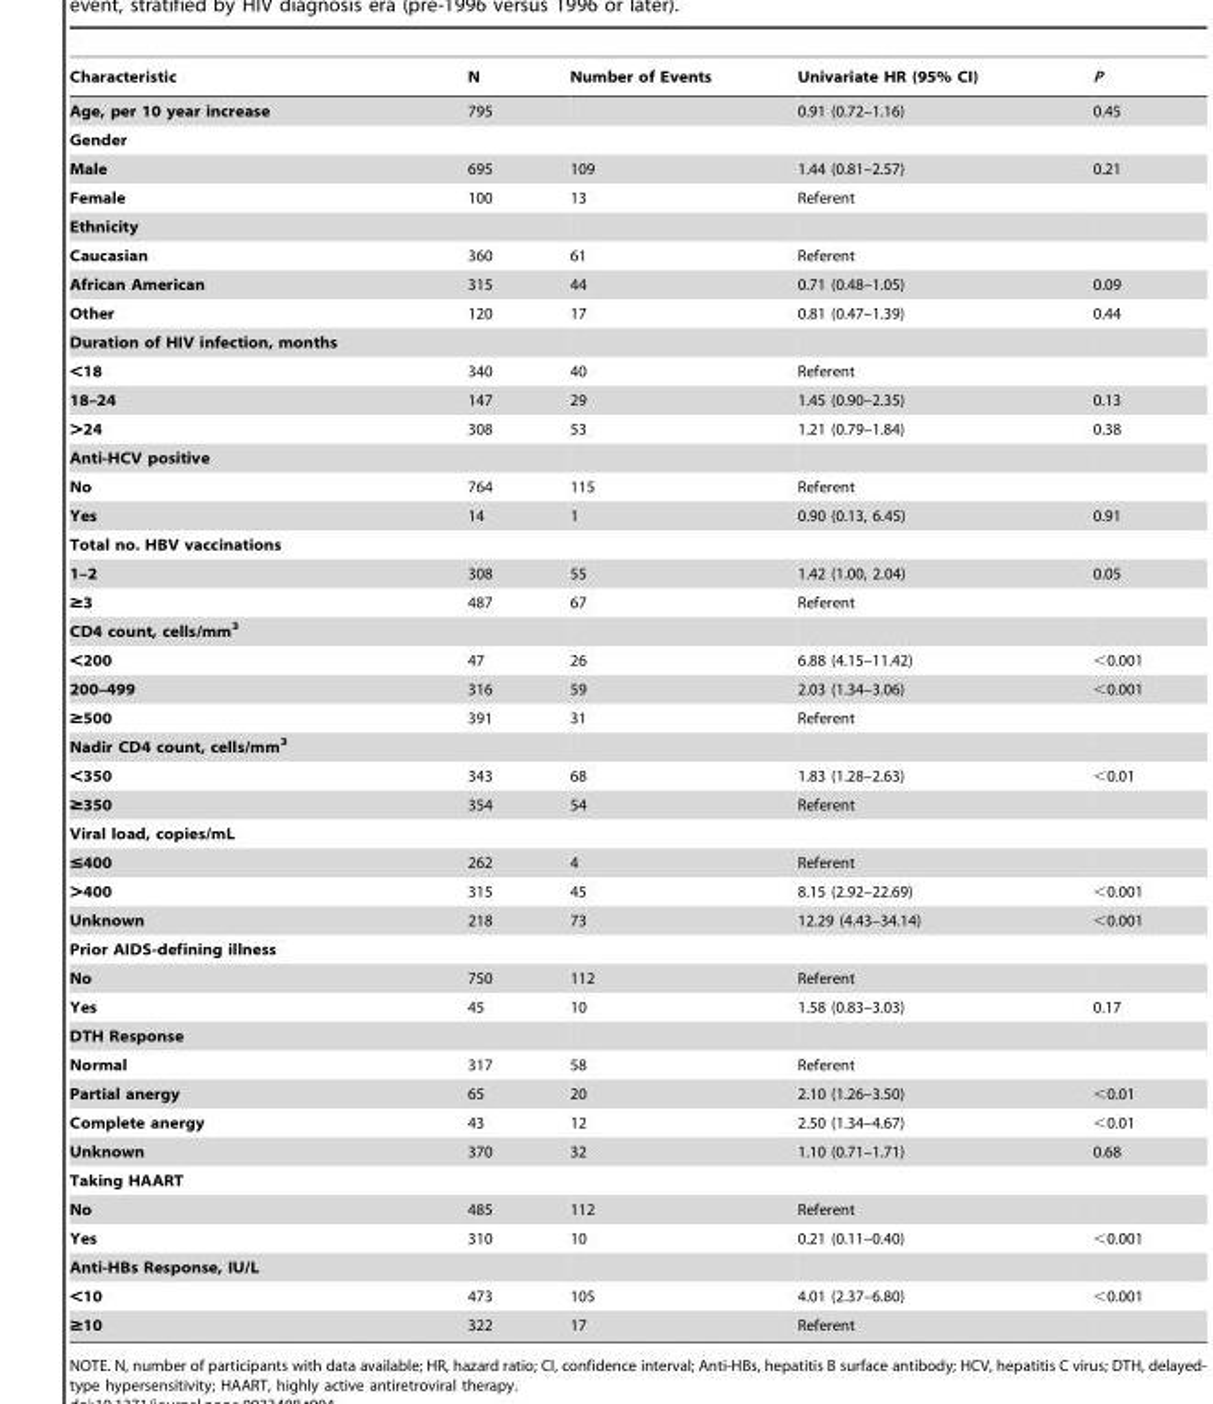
<table><thead><tr><td>Characteristic</td><td>N</td><td>Number of Events</td><td>Univariate HR (95% CI)</td><td>P</td></tr></thead><tbody><tr><td>Age, per 10 year increase</td><td>795</td><td></td><td>0.91 (0.72–1.16)</td><td>0.45</td></tr><tr><td colspan="5">Gender</td></tr><tr><td>Male</td><td>695</td><td>109</td><td>1.44 (0.81–2.57)</td><td>0.21</td></tr><tr><td>Female</td><td>100</td><td>13</td><td>Referent</td><td></td></tr><tr><td colspan="5">Ethnicity</td></tr><tr><td>Caucasian</td><td>360</td><td>61</td><td>Referent</td><td></td></tr><tr><td>African American</td><td>315</td><td>44</td><td>0.71 (0.48–1.05)</td><td>0.09</td></tr><tr><td>Other</td><td>120</td><td>17</td><td>0.81 (0.47–1.39)</td><td>0.44</td></tr><tr><td colspan="5">Duration of HIV infection, months</td></tr><tr><td>&lt;18</td><td>340</td><td>40</td><td>Referent</td><td></td></tr><tr><td>18–24</td><td>147</td><td>29</td><td>1.45 (0.90–2.35)</td><td>0.13</td></tr><tr><td>&gt;24</td><td>308</td><td>53</td><td>1.21 (0.79–1.84)</td><td>0.38</td></tr><tr><td colspan="5">Anti-HCV positive</td></tr><tr><td>No</td><td>764</td><td>115</td><td>Referent</td><td></td></tr><tr><td>Yes</td><td>14</td><td>1</td><td>0.90 (0.13, 6.45)</td><td>0.91</td></tr><tr><td colspan="5">Total no. HBV vaccinations</td></tr><tr><td>1–2</td><td>308</td><td>55</td><td>1.42 (1.00, 2.04)</td><td>0.05</td></tr><tr><td>≥3</td><td>487</td><td>67</td><td>Referent</td><td></td></tr><tr><td colspan="5">CD4 count, cells/mm<sup>3</sup></td></tr><tr><td>&lt;200</td><td>47</td><td>26</td><td>6.88 (4.15–11.42)</td><td>&lt;0.001</td></tr><tr><td>200–499</td><td>316</td><td>59</td><td>2.03 (1.34–3.06)</td><td>&lt;0.001</td></tr><tr><td>≥500</td><td>391</td><td>31</td><td>Referent</td><td></td></tr><tr><td colspan="5">Nadir CD4 count, cells/mm<sup>3</sup></td></tr><tr><td>&lt;350</td><td>343</td><td>68</td><td>1.83 (1.28–2.63)</td><td>&lt;0.01</td></tr><tr><td>≥350</td><td>354</td><td>54</td><td>Referent</td><td></td></tr><tr><td colspan="5">Viral load, copies/mL</td></tr><tr><td>≤400</td><td>262</td><td>4</td><td>Referent</td><td></td></tr><tr><td>&gt;400</td><td>315</td><td>45</td><td>8.15 (2.92–22.69)</td><td>&lt;0.001</td></tr><tr><td>Unknown</td><td>218</td><td>73</td><td>12.29 (4.43–34.14)</td><td>&lt;0.001</td></tr><tr><td colspan="5">Prior AIDS-defining illness</td></tr><tr><td>No</td><td>750</td><td>112</td><td>Referent</td><td></td></tr><tr><td>Yes</td><td>45</td><td>10</td><td>1.58 (0.83–3.03)</td><td>0.17</td></tr><tr><td colspan="5">DTH Response</td></tr><tr><td>Normal</td><td>317</td><td>58</td><td>Referent</td><td></td></tr><tr><td>Partial anergy</td><td>65</td><td>20</td><td>2.10 (1.26–3.50)</td><td>&lt;0.01</td></tr><tr><td>Complete anergy</td><td>43</td><td>12</td><td>2.50 (1.34–4.67)</td><td>&lt;0.01</td></tr><tr><td>Unknown</td><td>370</td><td>32</td><td>1.10 (0.71–1.71)</td><td>0.68</td></tr><tr><td colspan="5">Taking HAART</td></tr><tr><td>No</td><td>485</td><td>112</td><td>Referent</td><td></td></tr><tr><td>Yes</td><td>310</td><td>10</td><td>0.21 (0.11–0.40)</td><td>&lt;0.001</td></tr><tr><td colspan="5">Anti-HBs Response, IU/L</td></tr><tr><td>&lt;10</td><td>473</td><td>105</td><td>4.01 (2.37–6.80)</td><td>&lt;0.001</td></tr><tr><td>≥10</td><td>322</td><td>17</td><td>Referent</td><td></td></tr></tbody></table>